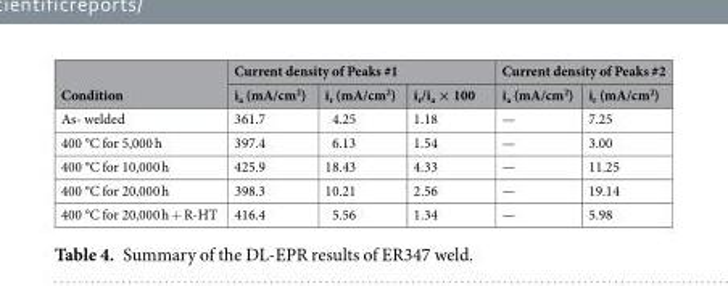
<table><thead><tr><td rowspan="2">Condition</td><td colspan="3">Current density of Peaks #1</td><td colspan="2">Current density of Peaks #2</td></tr><tr><td>i<sub>a</sub> (mA/cm<sup>2</sup>)</td><td>i<sub>r</sub> (mA/cm<sup>2</sup>)</td><td>i<sub>r</sub>/i<sub>a</sub> × 100</td><td>i<sub>a</sub> (mA/cm<sup>2</sup>)</td><td>i<sub>r</sub> (mA/cm<sup>2</sup>)</td></tr></thead><tbody><tr><td>As- welded</td><td>361.7</td><td>4.25</td><td>1.18</td><td>—</td><td>7.25</td></tr><tr><td>400 °C for 5,000 h</td><td>397.4</td><td>6.13</td><td>1.54</td><td>—</td><td>3.00</td></tr><tr><td>400 °C for 10,000 h</td><td>425.9</td><td>18.43</td><td>4.33</td><td>—</td><td>11.25</td></tr><tr><td>400 °C for 20,000 h</td><td>398.3</td><td>10.21</td><td>2.56</td><td>—</td><td>19.14</td></tr><tr><td>400 °C for 20,000 h + R-HT</td><td>416.4</td><td>5.56</td><td>1.34</td><td>—</td><td>5.98</td></tr></tbody></table>